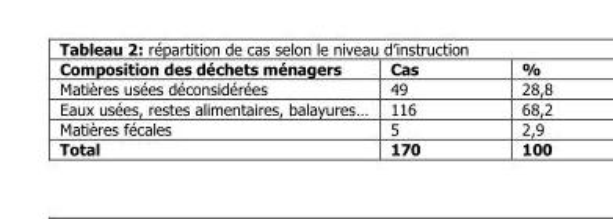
<table><thead><tr><td>Composition des déchets ménagers</td><td>Cas</td><td>%</td></tr></thead><tbody><tr><td>Matières usées déconsidérées</td><td>49</td><td>28,8</td></tr><tr><td>Eaux usées, restes alimentaires, balayures…</td><td>116</td><td>68,2</td></tr><tr><td>Matières fécales</td><td>5</td><td>2,9</td></tr><tr><td>Total</td><td>170</td><td>100</td></tr></tbody></table>